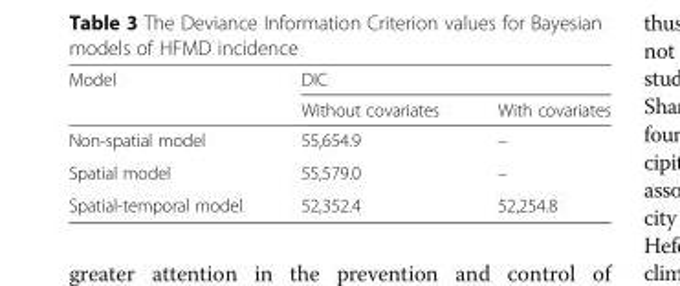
<table><thead><tr><td rowspan="2">Model</td><td colspan="2">DIC</td></tr><tr><td>Without covariates</td><td>With covariates</td></tr></thead><tbody><tr><td>Non-spatial model</td><td>55,654.9</td><td>–</td></tr><tr><td>Spatial model</td><td>55,579.0</td><td>–</td></tr><tr><td>Spatial-temporal model</td><td>52,352.4</td><td>52,254.8</td></tr></tbody></table>